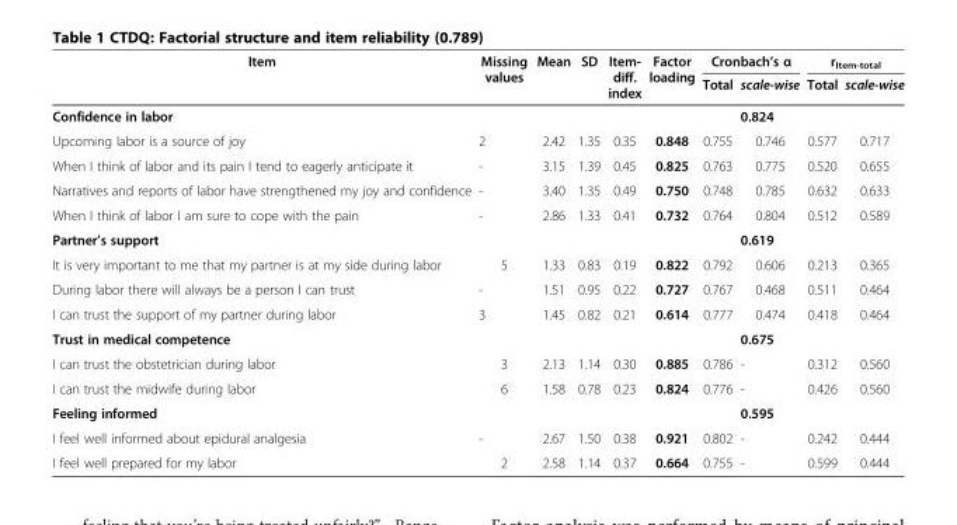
<table><thead><tr><td rowspan="2">Item</td><td rowspan="2">Missing values</td><td rowspan="2">Mean</td><td rowspan="2">SD</td><td rowspan="2">Item- diff. index</td><td rowspan="2">Factor loading</td><td colspan="2">Cronbach’s α</td><td colspan="2">r<sub>Item-total</sub></td></tr><tr><td>Total</td><td>scale-wise</td><td>Total</td><td>scale-wise</td></tr></thead><tbody><tr><td>Confidence in labor</td><td></td><td></td><td></td><td></td><td></td><td></td><td>0.824</td><td></td><td></td></tr><tr><td>Upcoming labor is a source of joy</td><td>2</td><td>2.42</td><td>1.35</td><td>0.35</td><td>0.848</td><td>0.755</td><td>0.746</td><td>0.577</td><td>0.717</td></tr><tr><td>When I think of labor and its pain I tend to eagerly anticipate it</td><td>-</td><td>3.15</td><td>1.39</td><td>0.45</td><td>0.825</td><td>0.763</td><td>0.775</td><td>0.520</td><td>0.655</td></tr><tr><td>Narratives and reports of labor have strengthened my joy and confidence</td><td>-</td><td>3.40</td><td>1.35</td><td>0.49</td><td>0.750</td><td>0.748</td><td>0.785</td><td>0.632</td><td>0.633</td></tr><tr><td>When I think of labor I am sure to cope with the pain</td><td>-</td><td>2.86</td><td>1.33</td><td>0.41</td><td>0.732</td><td>0.764</td><td>0.804</td><td>0.512</td><td>0.589</td></tr><tr><td>Partner’s support</td><td></td><td></td><td></td><td></td><td></td><td></td><td>0.619</td><td></td><td></td></tr><tr><td>It is very important to me that my partner is at my side during labor</td><td>5</td><td>1.33</td><td>0.83</td><td>0.19</td><td>0.822</td><td>0.792</td><td>0.606</td><td>0.213</td><td>0.365</td></tr><tr><td>During labor there will always be a person I can trust</td><td>-</td><td>1.51</td><td>0.95</td><td>0.22</td><td>0.727</td><td>0.767</td><td>0.468</td><td>0.511</td><td>0.464</td></tr><tr><td>I can trust the support of my partner during labor</td><td>3</td><td>1.45</td><td>0.82</td><td>0.21</td><td>0.614</td><td>0.777</td><td>0.474</td><td>0.418</td><td>0.464</td></tr><tr><td>Trust in medical competence</td><td></td><td></td><td></td><td></td><td></td><td></td><td>0.675</td><td></td><td></td></tr><tr><td>I can trust the obstetrician during labor</td><td>3</td><td>2.13</td><td>1.14</td><td>0.30</td><td>0.885</td><td>0.786</td><td>-</td><td>0.312</td><td>0.560</td></tr><tr><td>I can trust the midwife during labor</td><td>6</td><td>1.58</td><td>0.78</td><td>0.23</td><td>0.824</td><td>0.776</td><td>-</td><td>0.426</td><td>0.560</td></tr><tr><td>Feeling informed</td><td></td><td></td><td></td><td></td><td></td><td></td><td>0.595</td><td></td><td></td></tr><tr><td>I feel well informed about epidural analgesia</td><td>-</td><td>2.67</td><td>1.50</td><td>0.38</td><td>0.921</td><td>0.802</td><td>-</td><td>0.242</td><td>0.444</td></tr><tr><td>I feel well prepared for my labor</td><td>2</td><td>2.58</td><td>1.14</td><td>0.37</td><td>0.664</td><td>0.755</td><td>-</td><td>0.599</td><td>0.444</td></tr></tbody></table>